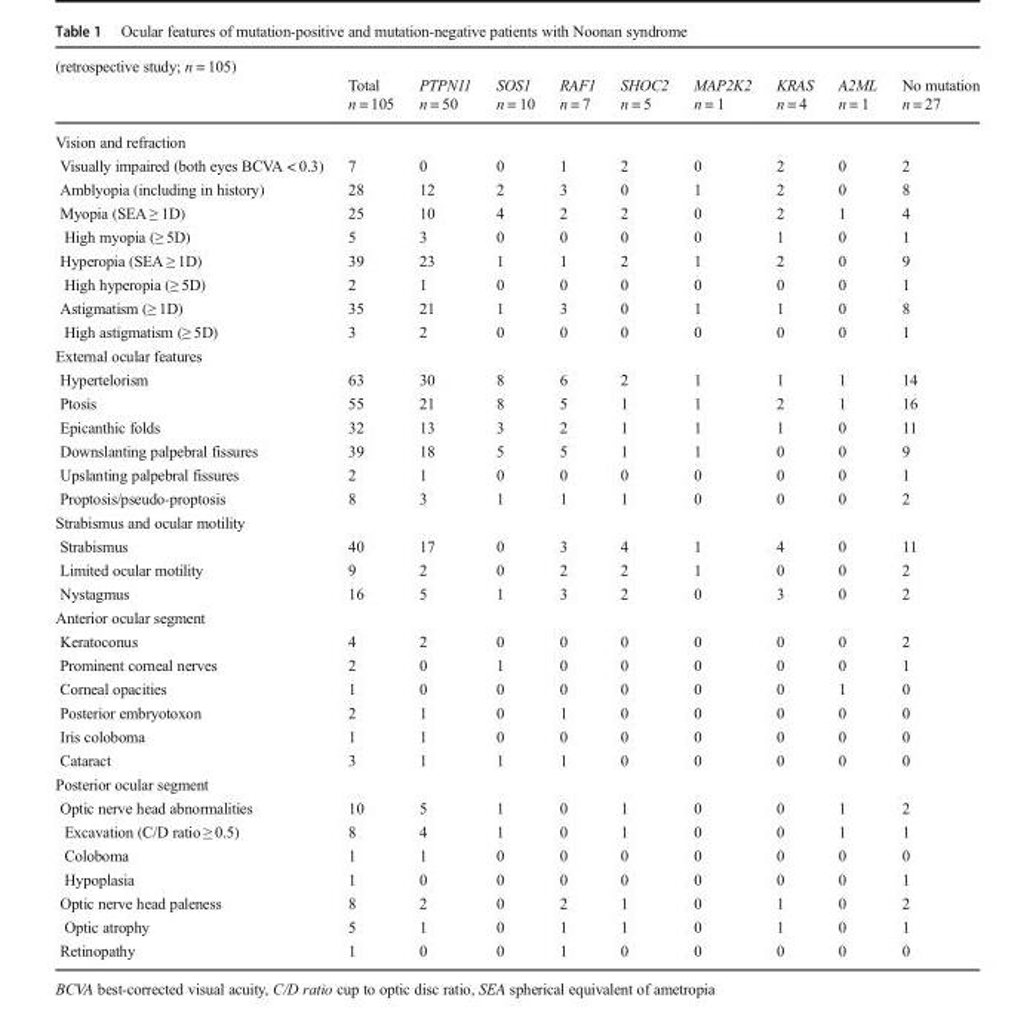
<table><thead><tr><td rowspan="3">(retrospective study; n = 105)</td><td rowspan="3">Total n = 105</td><td rowspan="3">PTPN11 n = 50</td><td rowspan="3">SOS1 n = 10</td><td rowspan="3">RAF1 n = 7</td><td rowspan="3">SHOC2 n = 5</td><td rowspan="3">MAP2K2 n = 1</td><td rowspan="3">KRAS n = 4</td><td rowspan="3">A2ML n = 1</td><td rowspan="3">No mutation n = 27</td></tr><tr></tr><tr></tr></thead><tbody><tr><td colspan="10">Vision and refraction</td></tr><tr><td>Visually impaired (both eyes BCVA &lt; 0.3)</td><td>7</td><td>0</td><td>0</td><td>1</td><td>2</td><td>0</td><td>2</td><td>0</td><td>2</td></tr><tr><td>Amblyopia (including in history)</td><td>28</td><td>12</td><td>2</td><td>3</td><td>0</td><td>1</td><td>2</td><td>0</td><td>8</td></tr><tr><td>Myopia (SEA ≥ 1D)</td><td>25</td><td>10</td><td>4</td><td>2</td><td>2</td><td>0</td><td>2</td><td>1</td><td>4</td></tr><tr><td>High myopia (≥ 5D)</td><td>5</td><td>3</td><td>0</td><td>0</td><td>0</td><td>0</td><td>1</td><td>0</td><td>1</td></tr><tr><td>Hyperopia (SEA ≥ 1D)</td><td>39</td><td>23</td><td>1</td><td>1</td><td>2</td><td>1</td><td>2</td><td>0</td><td>9</td></tr><tr><td>High hyperopia (≥ 5D)</td><td>2</td><td>1</td><td>0</td><td>0</td><td>0</td><td>0</td><td>0</td><td>0</td><td>1</td></tr><tr><td>Astigmatism (≥ 1D)</td><td>35</td><td>21</td><td>1</td><td>3</td><td>0</td><td>1</td><td>1</td><td>0</td><td>8</td></tr><tr><td>High astigmatism (≥ 5D)</td><td>3</td><td>2</td><td>0</td><td>0</td><td>0</td><td>0</td><td>0</td><td>0</td><td>1</td></tr><tr><td colspan="10">External ocular features</td></tr><tr><td>Hypertelorism</td><td>63</td><td>30</td><td>8</td><td>6</td><td>2</td><td>1</td><td>1</td><td>1</td><td>14</td></tr><tr><td>Ptosis</td><td>55</td><td>21</td><td>8</td><td>5</td><td>1</td><td>1</td><td>2</td><td>1</td><td>16</td></tr><tr><td>Epicanthic folds</td><td>32</td><td>13</td><td>3</td><td>2</td><td>1</td><td>1</td><td>1</td><td>0</td><td>11</td></tr><tr><td>Downslanting palpebral fissures</td><td>39</td><td>18</td><td>5</td><td>5</td><td>1</td><td>1</td><td>0</td><td>0</td><td>9</td></tr><tr><td>Upslanting palpebral fissures</td><td>2</td><td>1</td><td>0</td><td>0</td><td>0</td><td>0</td><td>0</td><td>0</td><td>1</td></tr><tr><td>Proptosis/pseudo-proptosis</td><td>8</td><td>3</td><td>1</td><td>1</td><td>1</td><td>0</td><td>0</td><td>0</td><td>2</td></tr><tr><td colspan="10">Strabismus and ocular motility</td></tr><tr><td>Strabismus</td><td>40</td><td>17</td><td>0</td><td>3</td><td>4</td><td>1</td><td>4</td><td>0</td><td>11</td></tr><tr><td>Limited ocular motility</td><td>9</td><td>2</td><td>0</td><td>2</td><td>2</td><td>1</td><td>0</td><td>0</td><td>2</td></tr><tr><td>Nystagmus</td><td>16</td><td>5</td><td>1</td><td>3</td><td>2</td><td>0</td><td>3</td><td>0</td><td>2</td></tr><tr><td colspan="10">Anterior ocular segment</td></tr><tr><td>Keratoconus</td><td>4</td><td>2</td><td>0</td><td>0</td><td>0</td><td>0</td><td>0</td><td>0</td><td>2</td></tr><tr><td>Prominent corneal nerves</td><td>2</td><td>0</td><td>1</td><td>0</td><td>0</td><td>0</td><td>0</td><td>0</td><td>1</td></tr><tr><td>Corneal opacities</td><td>1</td><td>0</td><td>0</td><td>0</td><td>0</td><td>0</td><td>0</td><td>1</td><td>0</td></tr><tr><td>Posterior embryotoxon</td><td>2</td><td>1</td><td>0</td><td>1</td><td>0</td><td>0</td><td>0</td><td>0</td><td>0</td></tr><tr><td>Iris coloboma</td><td>1</td><td>1</td><td>0</td><td>0</td><td>0</td><td>0</td><td>0</td><td>0</td><td>0</td></tr><tr><td>Cataract</td><td>3</td><td>1</td><td>1</td><td>1</td><td>0</td><td>0</td><td>0</td><td>0</td><td>0</td></tr><tr><td colspan="10">Posterior ocular segment</td></tr><tr><td>Optic nerve head abnormalities</td><td>10</td><td>5</td><td>1</td><td>0</td><td>1</td><td>0</td><td>0</td><td>1</td><td>2</td></tr><tr><td>Excavation (C/D ratio ≥ 0.5)</td><td>8</td><td>4</td><td>1</td><td>0</td><td>1</td><td>0</td><td>0</td><td>1</td><td>1</td></tr><tr><td>Coloboma</td><td>1</td><td>1</td><td>0</td><td>0</td><td>0</td><td>0</td><td>0</td><td>0</td><td>0</td></tr><tr><td>Hypoplasia</td><td>1</td><td>0</td><td>0</td><td>0</td><td>0</td><td>0</td><td>0</td><td>0</td><td>1</td></tr><tr><td>Optic nerve head paleness</td><td>8</td><td>2</td><td>0</td><td>2</td><td>1</td><td>0</td><td>1</td><td>0</td><td>2</td></tr><tr><td>Optic atrophy</td><td>5</td><td>1</td><td>0</td><td>1</td><td>1</td><td>0</td><td>1</td><td>0</td><td>1</td></tr><tr><td>Retinopathy</td><td>1</td><td>0</td><td>0</td><td>1</td><td>0</td><td>0</td><td>0</td><td>0</td><td>0</td></tr></tbody></table>